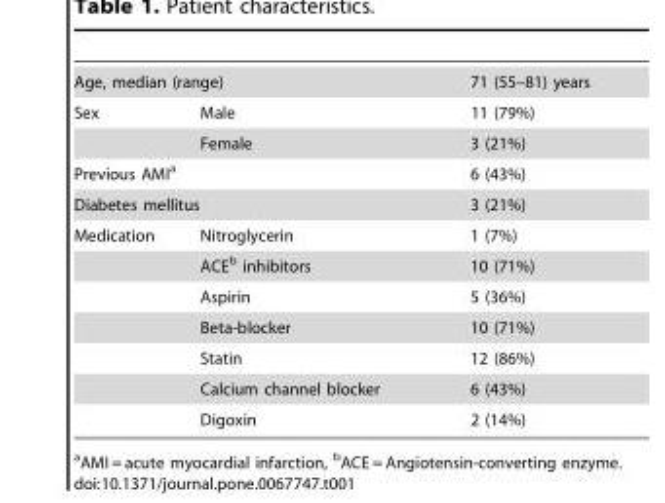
<table><tbody><tr><td colspan="2">Age, median (range)</td><td>71 (55–81) years</td></tr><tr><td rowspan="2">Sex</td><td>Male</td><td>11 (79%)</td></tr><tr><td>Female</td><td>3 (21%)</td></tr><tr><td colspan="2">Previous AMI<sup>a</sup></td><td>6 (43%)</td></tr><tr><td colspan="2">Diabetes mellitus</td><td>3 (21%)</td></tr><tr><td rowspan="7">Medication</td><td>Nitroglycerin</td><td>1 (7%)</td></tr><tr><td>ACE<sup>b</sup> inhibitors</td><td>10 (71%)</td></tr><tr><td>Aspirin</td><td>5 (36%)</td></tr><tr><td>Beta-blocker</td><td>10 (71%)</td></tr><tr><td>Statin</td><td>12 (86%)</td></tr><tr><td>Calcium channel blocker</td><td>6 (43%)</td></tr><tr><td>Digoxin</td><td>2 (14%)</td></tr></tbody></table>